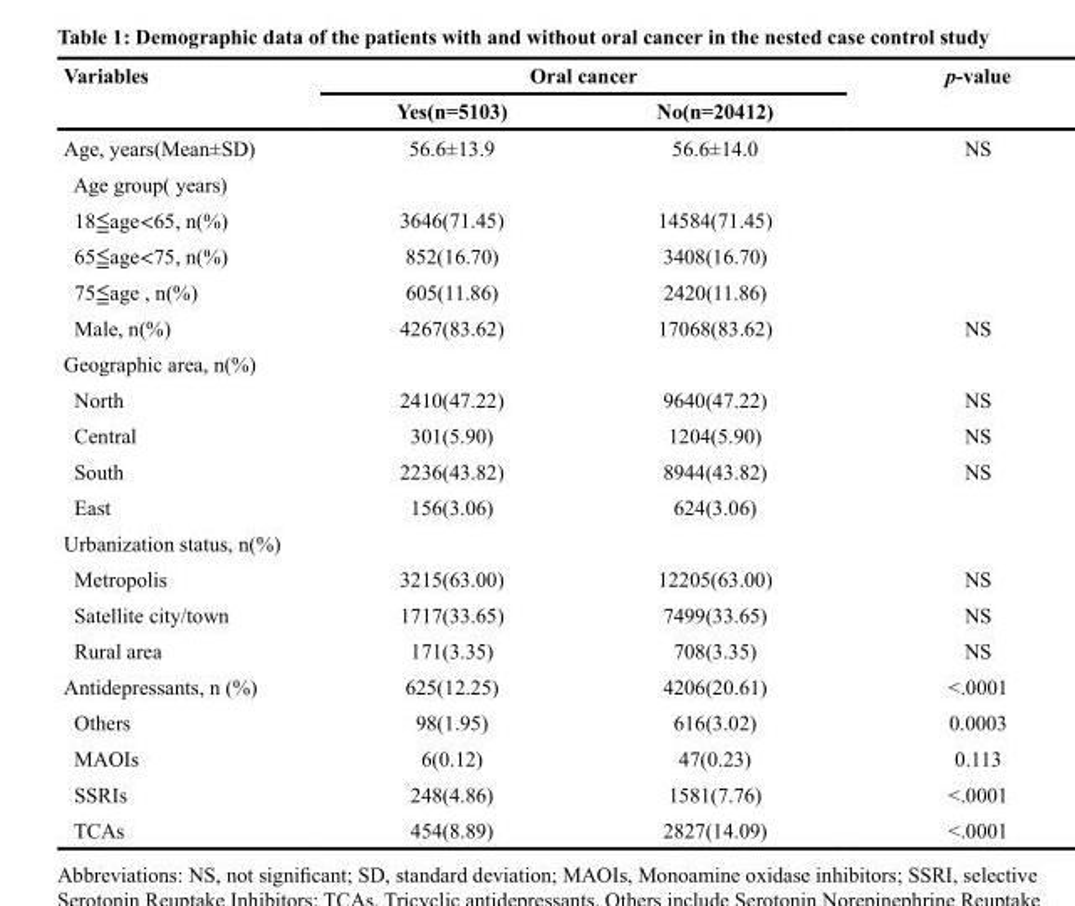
<table><thead><tr><td rowspan="2">Variables</td><td colspan="2">Oral cancer</td><td rowspan="2">p-value</td></tr><tr><td>Yes(n=5103)</td><td>No(n=20412)</td></tr></thead><tbody><tr><td>Age, years(Mean±SD)</td><td>56.6±13.9</td><td>56.6±14.0</td><td>NS</td></tr><tr><td colspan="4">Age group( years)</td></tr><tr><td>18≦age&lt;65, n(%)</td><td>3646(71.45)</td><td>14584(71.45)</td><td></td></tr><tr><td>65≦age&lt;75, n(%)</td><td>852(16.70)</td><td>3408(16.70)</td><td></td></tr><tr><td>75≦age , n(%)</td><td>605(11.86)</td><td>2420(11.86)</td><td></td></tr><tr><td>Male, n(%)</td><td>4267(83.62)</td><td>17068(83.62)</td><td>NS</td></tr><tr><td colspan="4">Geographic area, n(%)</td></tr><tr><td>North</td><td>2410(47.22)</td><td>9640(47.22)</td><td>NS</td></tr><tr><td>Central</td><td>301(5.90)</td><td>1204(5.90)</td><td>NS</td></tr><tr><td>South</td><td>2236(43.82)</td><td>8944(43.82)</td><td>NS</td></tr><tr><td>East</td><td>156(3.06)</td><td>624(3.06)</td><td></td></tr><tr><td colspan="4">Urbanization status, n(%)</td></tr><tr><td>Metropolis</td><td>3215(63.00)</td><td>12205(63.00)</td><td>NS</td></tr><tr><td>Satellite city/town</td><td>1717(33.65)</td><td>7499(33.65)</td><td>NS</td></tr><tr><td>Rural area</td><td>171(3.35)</td><td>708(3.35)</td><td>NS</td></tr><tr><td>Antidepressants, n (%)</td><td>625(12.25)</td><td>4206(20.61)</td><td>&lt;.0001</td></tr><tr><td>Others</td><td>98(1.95)</td><td>616(3.02)</td><td>0.0003</td></tr><tr><td>MAOIs</td><td>6(0.12)</td><td>47(0.23)</td><td>0.113</td></tr><tr><td>SSRIs</td><td>248(4.86)</td><td>1581(7.76)</td><td>&lt;.0001</td></tr><tr><td>TCAs</td><td>454(8.89)</td><td>2827(14.09)</td><td>&lt;.0001</td></tr></tbody></table>